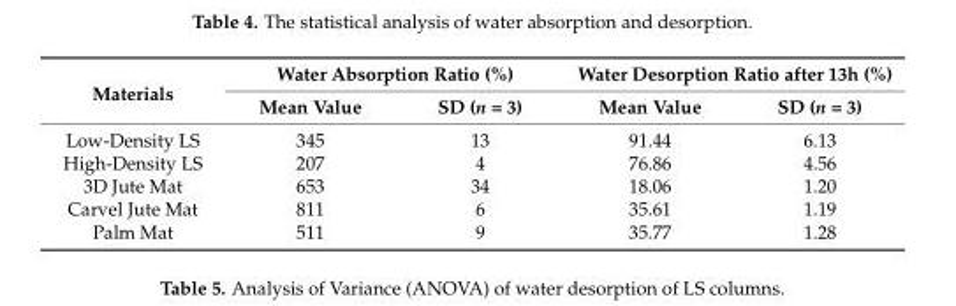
<table><thead><tr><td rowspan="2">Materials</td><td colspan="2">Water Absorption Ratio (%)</td><td colspan="2">Water Desorption Ratio after 13h (%)</td></tr><tr><td>Mean Value</td><td>SD (n = 3)</td><td>Mean Value</td><td>SD (n = 3)</td></tr></thead><tbody><tr><td>Low-Density LS</td><td>345</td><td>13</td><td>91.44</td><td>6.13</td></tr><tr><td>High-Density LS</td><td>207</td><td>4</td><td>76.86</td><td>4.56</td></tr><tr><td>3D Jute Mat</td><td>653</td><td>34</td><td>18.06</td><td>1.20</td></tr><tr><td>Carvel Jute Mat</td><td>811</td><td>6</td><td>35.61</td><td>1.19</td></tr><tr><td>Palm Mat</td><td>511</td><td>9</td><td>35.77</td><td>1.28</td></tr></tbody></table>